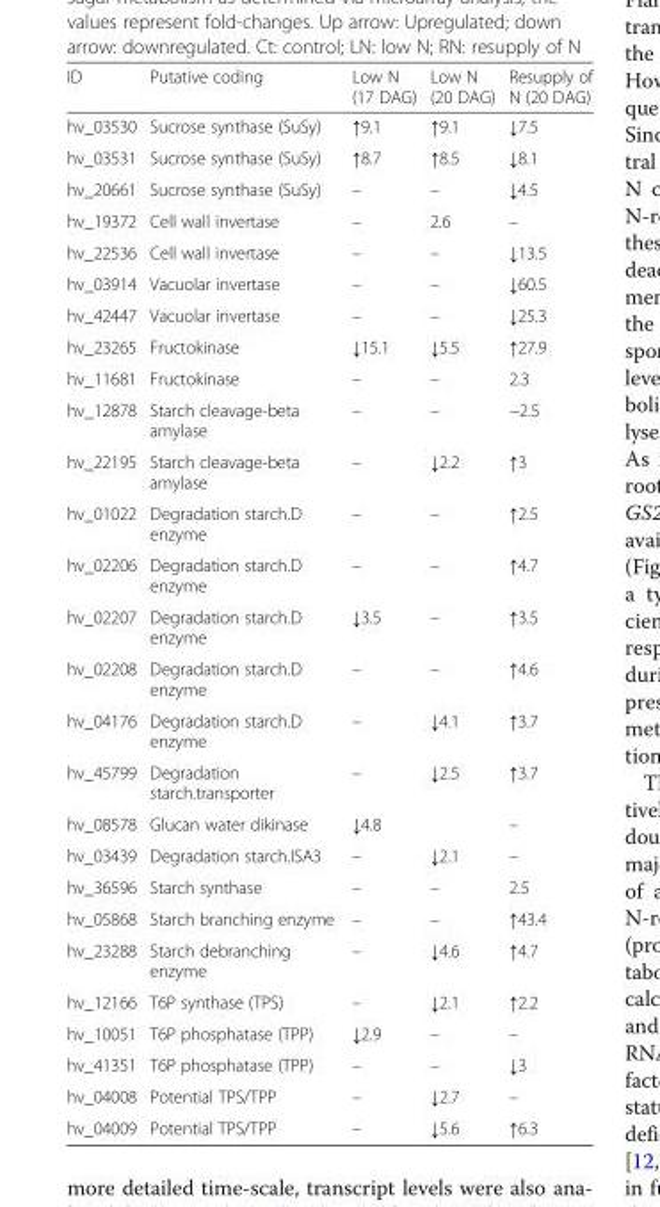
<table><thead><tr><td>ID</td><td>Putative coding</td><td>Low N (17 DAG)</td><td>Low N (20 DAG)</td><td>Resupply of N (20 DAG)</td></tr></thead><tbody><tr><td>hv_03530</td><td>Sucrose synthase (SuSy)</td><td>↑9.1</td><td>↑9.1</td><td>↓7.5</td></tr><tr><td>hv_03531</td><td>Sucrose synthase (SuSy)</td><td>↑8.7</td><td>↑8.5</td><td>↓8.1</td></tr><tr><td>hv_20661</td><td>Sucrose synthase (SuSy)</td><td>–</td><td>–</td><td>↓4.5</td></tr><tr><td>hv_19372</td><td>Cell wall invertase</td><td>–</td><td>2.6</td><td>–</td></tr><tr><td>hv_22536</td><td>Cell wall invertase</td><td>–</td><td>–</td><td>↓13.5</td></tr><tr><td>hv_03914</td><td>Vacuolar invertase</td><td>–</td><td>–</td><td>↓60.5</td></tr><tr><td>hv_42447</td><td>Vacuolar invertase</td><td>–</td><td>–</td><td>↓25.3</td></tr><tr><td>hv_23265</td><td>Fructokinase</td><td>↓15.1</td><td>↓5.5</td><td>↑27.9</td></tr><tr><td>hv_11681</td><td>Fructokinase</td><td>–</td><td>–</td><td>2.3</td></tr><tr><td>hv_12878</td><td>Starch cleavage-beta amylase</td><td>–</td><td>–</td><td>−2.5</td></tr><tr><td>hv_22195</td><td>Starch cleavage-beta amylase</td><td>–</td><td>↓2.2</td><td>↑3</td></tr><tr><td>hv_01022</td><td>Degradation starch.D enzyme</td><td>–</td><td>–</td><td>↑2.5</td></tr><tr><td>hv_02206</td><td>Degradation starch.D enzyme</td><td>–</td><td>–</td><td>↑4.7</td></tr><tr><td>hv_02207</td><td>Degradation starch.D enzyme</td><td>↓3.5</td><td>–</td><td>↑3.5</td></tr><tr><td>hv_02208</td><td>Degradation starch.D enzyme</td><td>–</td><td>–</td><td>↑4.6</td></tr><tr><td>hv_04176</td><td>Degradation starch.D enzyme</td><td>–</td><td>↓4.1</td><td>↑3.7</td></tr><tr><td>hv_45799</td><td>Degradation starch.transporter</td><td>–</td><td>↓2.5</td><td>↑3.7</td></tr><tr><td>hv_08578</td><td>Glucan water dikinase</td><td>↓4.8</td><td></td><td>–</td></tr><tr><td>hv_03439</td><td>Degradation starch.ISA3</td><td>–</td><td>↓2.1</td><td>–</td></tr><tr><td>hv_36596</td><td>Starch synthase</td><td>–</td><td>–</td><td>2.5</td></tr><tr><td>hv_05868</td><td>Starch branching enzyme</td><td>–</td><td>–</td><td>↑43.4</td></tr><tr><td>hv_23288</td><td>Starch debranching enzyme</td><td>–</td><td>↓4.6</td><td>↑4.7</td></tr><tr><td>hv_12166</td><td>T6P synthase (TPS)</td><td>–</td><td>↓2.1</td><td>↑2.2</td></tr><tr><td>hv_10051</td><td>T6P phosphatase (TPP)</td><td>↓2.9</td><td>–</td><td>–</td></tr><tr><td>hv_41351</td><td>T6P phosphatase (TPP)</td><td>–</td><td>–</td><td>↓3</td></tr><tr><td>hv_04008</td><td>Potential TPS/TPP</td><td>–</td><td>↓2.7</td><td>–</td></tr><tr><td>hv_04009</td><td>Potential TPS/TPP</td><td>–</td><td>↓5.6</td><td>↑6.3</td></tr></tbody></table>